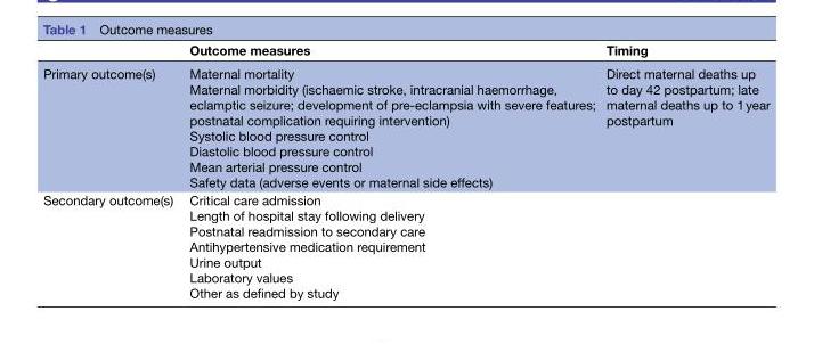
<table><thead><tr><td></td><td>Outcome measures</td><td>Timing</td></tr></thead><tbody><tr><td>Primary outcome(s)</td><td>Maternal mortality Maternal morbidity (ischaemic stroke, intracranial haemorrhage, eclamptic seizure; development of pre-eclampsia with severe features; postnatal complication requiring intervention) Systolic blood pressure control Diastolic blood pressure control Mean arterial pressure control Safety data (adverse events or maternal side effects)</td><td>Direct maternal deaths up to day 42 postpartum; late maternal deaths up to 1 year postpartum</td></tr><tr><td>Secondary outcome(s)</td><td>Critical care admission Length of hospital stay following delivery Postnatal readmission to secondary care Antihypertensive medication requirement Urine output Laboratory values Other as defined by study</td><td></td></tr></tbody></table>